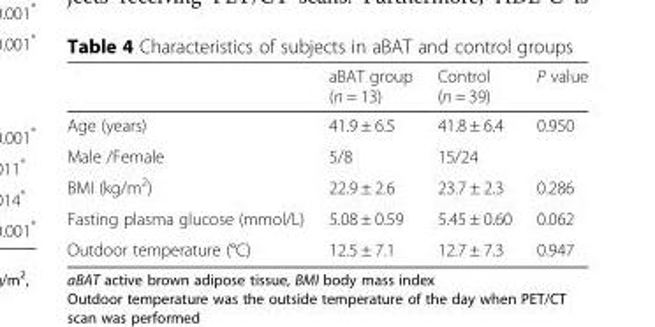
<table><thead><tr><td></td><td>aBAT group (n = 13)</td><td>Control (n = 39)</td><td>P value</td></tr></thead><tbody><tr><td>Age (years)</td><td>41.9 ± 6.5</td><td>41.8 ± 6.4</td><td>0.950</td></tr><tr><td>Male /Female</td><td>5/8</td><td>15/24</td><td></td></tr><tr><td>BMI (kg/m<sup>2</sup>)</td><td>22.9 ± 2.6</td><td>23.7 ± 2.3</td><td>0.286</td></tr><tr><td>Fasting plasma glucose (mmol/L)</td><td>5.08 ± 0.59</td><td>5.45 ± 0.60</td><td>0.062</td></tr><tr><td>Outdoor temperature (°C)</td><td>12.5 ± 7.1</td><td>12.7 ± 7.3</td><td>0.947</td></tr></tbody></table>